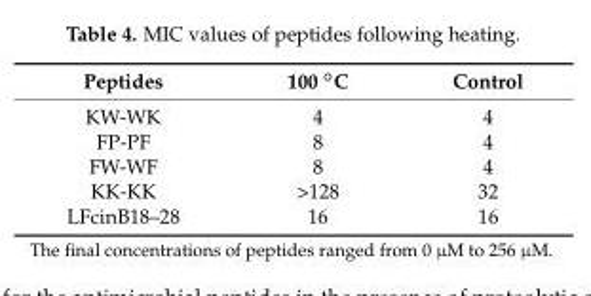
<table><thead><tr><td>Peptides</td><td>100 ◦C</td><td>Control</td></tr></thead><tbody><tr><td>KW-WK</td><td>4</td><td>4</td></tr><tr><td>FP-PF</td><td>8</td><td>4</td></tr><tr><td>FW-WF</td><td>8</td><td>4</td></tr><tr><td>KK-KK</td><td>&gt;128</td><td>32</td></tr><tr><td>LFcinB18–28</td><td>16</td><td>16</td></tr></tbody></table>